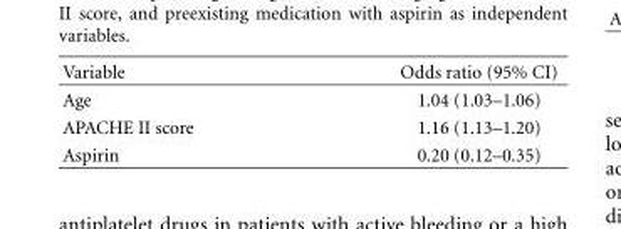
<table><thead><tr><td>Variable</td><td>Odds ratio (95% CI)</td></tr></thead><tbody><tr><td>Age</td><td>1.04 (1.03–1.06)</td></tr><tr><td>APACHE II score</td><td>1.16 (1.13–1.20)</td></tr><tr><td>Aspirin</td><td>0.20 (0.12–0.35)</td></tr></tbody></table>